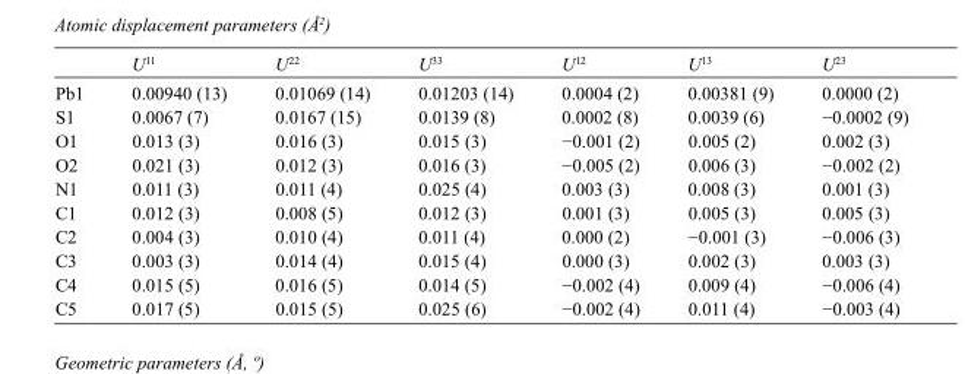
<table><thead><tr><td></td><td>U<sup>11</sup></td><td>U<sup>22</sup></td><td>U<sup>33</sup></td><td>U<sup>12</sup></td><td>U<sup>13</sup></td><td>U<sup>23</sup></td></tr></thead><tbody><tr><td>Pb1</td><td>0.00940 (13)</td><td>0.01069 (14)</td><td>0.01203 (14)</td><td>0.0004 (2)</td><td>0.00381 (9)</td><td>0.0000 (2)</td></tr><tr><td>S1</td><td>0.0067 (7)</td><td>0.0167 (15)</td><td>0.0139 (8)</td><td>0.0002 (8)</td><td>0.0039 (6)</td><td>−0.0002 (9)</td></tr><tr><td>O1</td><td>0.013 (3)</td><td>0.016 (3)</td><td>0.015 (3)</td><td>−0.001 (2)</td><td>0.005 (2)</td><td>0.002 (3)</td></tr><tr><td>O2</td><td>0.021 (3)</td><td>0.012 (3)</td><td>0.016 (3)</td><td>−0.005 (2)</td><td>0.006 (3)</td><td>−0.002 (2)</td></tr><tr><td>N1</td><td>0.011 (3)</td><td>0.011 (4)</td><td>0.025 (4)</td><td>0.003 (3)</td><td>0.008 (3)</td><td>0.001 (3)</td></tr><tr><td>C1</td><td>0.012 (3)</td><td>0.008 (5)</td><td>0.012 (3)</td><td>0.001 (3)</td><td>0.005 (3)</td><td>0.005 (3)</td></tr><tr><td>C2</td><td>0.004 (3)</td><td>0.010 (4)</td><td>0.011 (4)</td><td>0.000 (2)</td><td>−0.001 (3)</td><td>−0.006 (3)</td></tr><tr><td>C3</td><td>0.003 (3)</td><td>0.014 (4)</td><td>0.015 (4)</td><td>0.000 (3)</td><td>0.002 (3)</td><td>0.003 (3)</td></tr><tr><td>C4</td><td>0.015 (5)</td><td>0.016 (5)</td><td>0.014 (5)</td><td>−0.002 (4)</td><td>0.009 (4)</td><td>−0.006 (4)</td></tr><tr><td>C5</td><td>0.017 (5)</td><td>0.015 (5)</td><td>0.025 (6)</td><td>−0.002 (4)</td><td>0.011 (4)</td><td>−0.003 (4)</td></tr></tbody></table>